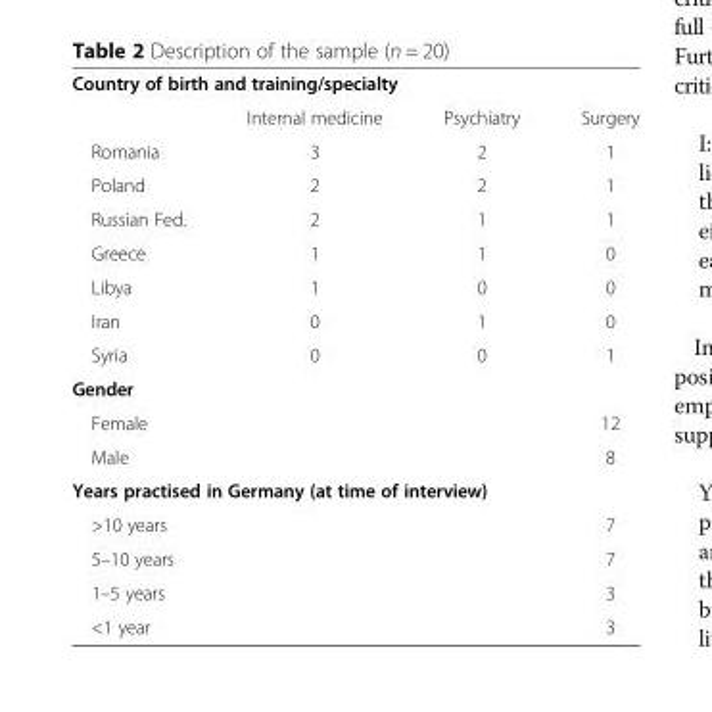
<table><tbody><tr><td colspan="4">Country of birth and training/specialty</td></tr><tr><td></td><td>Internal medicine</td><td>Psychiatry</td><td>Surgery</td></tr><tr><td>Romania</td><td>3</td><td>2</td><td>1</td></tr><tr><td>Poland</td><td>2</td><td>2</td><td>1</td></tr><tr><td>Russian Fed.</td><td>2</td><td>1</td><td>1</td></tr><tr><td>Greece</td><td>1</td><td>1</td><td>0</td></tr><tr><td>Libya</td><td>1</td><td>0</td><td>0</td></tr><tr><td>Iran</td><td>0</td><td>1</td><td>0</td></tr><tr><td>Syria</td><td>0</td><td>0</td><td>1</td></tr><tr><td colspan="4">Gender</td></tr><tr><td colspan="3">Female</td><td>12</td></tr><tr><td colspan="3">Male</td><td>8</td></tr><tr><td colspan="4">Years practised in Germany (at time of interview)</td></tr><tr><td colspan="3">&gt;10 years</td><td>7</td></tr><tr><td colspan="3">5–10 years</td><td>7</td></tr><tr><td colspan="3">1–5 years</td><td>3</td></tr><tr><td colspan="3">&lt;1 year</td><td>3</td></tr></tbody></table>